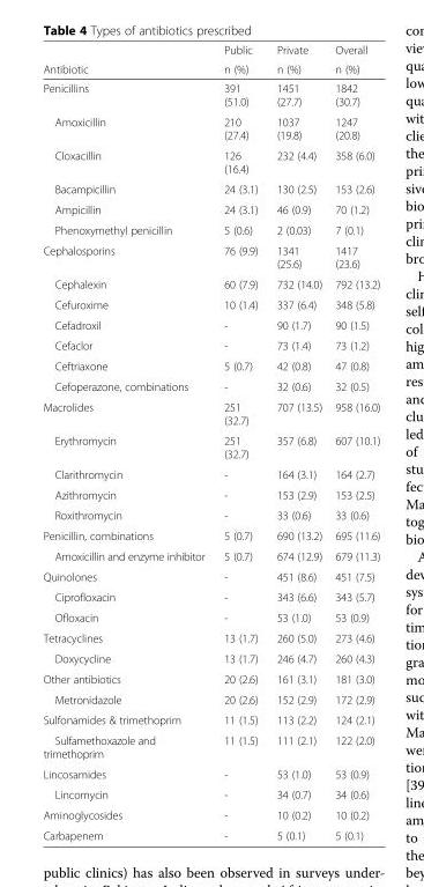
<table><thead><tr><td rowspan="2">Antibiotic</td><td rowspan="2">Public n (%)</td><td rowspan="2">Private n (%)</td><td rowspan="2">Overall n (%)</td></tr><tr></tr></thead><tbody><tr><td>Penicillins</td><td>391 (51.0)</td><td>1451 (27.7)</td><td>1842 (30.7)</td></tr><tr><td>Amoxicillin</td><td>210 (27.4)</td><td>1037 (19.8)</td><td>1247 (20.8)</td></tr><tr><td>Cloxacillin</td><td>126 (16.4)</td><td>232 (4.4)</td><td>358 (6.0)</td></tr><tr><td>Bacampicillin</td><td>24 (3.1)</td><td>130 (2.5)</td><td>153 (2.6)</td></tr><tr><td>Ampicillin</td><td>24 (3.1)</td><td>46 (0.9)</td><td>70 (1.2)</td></tr><tr><td>Phenoxymethyl penicillin</td><td>5 (0.6)</td><td>2 (0.03)</td><td>7 (0.1)</td></tr><tr><td>Cephalosporins</td><td>76 (9.9)</td><td>1341 (25.6)</td><td>1417 (23.6)</td></tr><tr><td>Cephalexin</td><td>60 (7.9)</td><td>732 (14.0)</td><td>792 (13.2)</td></tr><tr><td>Cefuroxime</td><td>10 (1.4)</td><td>337 (6.4)</td><td>348 (5.8)</td></tr><tr><td>Cefadroxil</td><td>-</td><td>90 (1.7)</td><td>90 (1.5)</td></tr><tr><td>Cefaclor</td><td>-</td><td>73 (1.4)</td><td>73 (1.2)</td></tr><tr><td>Ceftriaxone</td><td>5 (0.7)</td><td>42 (0.8)</td><td>47 (0.8)</td></tr><tr><td>Cefoperazone, combinations</td><td>-</td><td>32 (0.6)</td><td>32 (0.5)</td></tr><tr><td>Macrolides</td><td>251 (32.7)</td><td>707 (13.5)</td><td>958 (16.0)</td></tr><tr><td>Erythromycin</td><td>251 (32.7)</td><td>357 (6.8)</td><td>607 (10.1)</td></tr><tr><td>Clarithromycin</td><td>-</td><td>164 (3.1)</td><td>164 (2.7)</td></tr><tr><td>Azithromycin</td><td>-</td><td>153 (2.9)</td><td>153 (2.5)</td></tr><tr><td>Roxithromycin</td><td>-</td><td>33 (0.6)</td><td>33 (0.6)</td></tr><tr><td>Penicillin, combinations</td><td>5 (0.7)</td><td>690 (13.2)</td><td>695 (11.6)</td></tr><tr><td>Amoxicillin and enzyme inhibitor</td><td>5 (0.7)</td><td>674 (12.9)</td><td>679 (11.3)</td></tr><tr><td>Quinolones</td><td>-</td><td>451 (8.6)</td><td>451 (7.5)</td></tr><tr><td>Ciprofloxacin</td><td>-</td><td>343 (6.6)</td><td>343 (5.7)</td></tr><tr><td>Ofloxacin</td><td>-</td><td>53 (1.0)</td><td>53 (0.9)</td></tr><tr><td>Tetracyclines</td><td>13 (1.7)</td><td>260 (5.0)</td><td>273 (4.6)</td></tr><tr><td>Doxycycline</td><td>13 (1.7)</td><td>246 (4.7)</td><td>260 (4.3)</td></tr><tr><td>Other antibiotics</td><td>20 (2.6)</td><td>161 (3.1)</td><td>181 (3.0)</td></tr><tr><td>Metronidazole</td><td>20 (2.6)</td><td>152 (2.9)</td><td>172 (2.9)</td></tr><tr><td>Sulfonamides &amp; trimethoprim</td><td>11 (1.5)</td><td>113 (2.2)</td><td>124 (2.1)</td></tr><tr><td>Sulfamethoxazole and trimethoprim</td><td>11 (1.5)</td><td>111 (2.1)</td><td>122 (2.0)</td></tr><tr><td>Lincosamides</td><td>-</td><td>53 (1.0)</td><td>53 (0.9)</td></tr><tr><td>Lincomycin</td><td>-</td><td>34 (0.7)</td><td>34 (0.6)</td></tr><tr><td>Aminoglycosides</td><td>-</td><td>10 (0.2)</td><td>10 (0.2)</td></tr><tr><td>Carbapenem</td><td>-</td><td>5 (0.1)</td><td>5 (0.1)</td></tr></tbody></table>